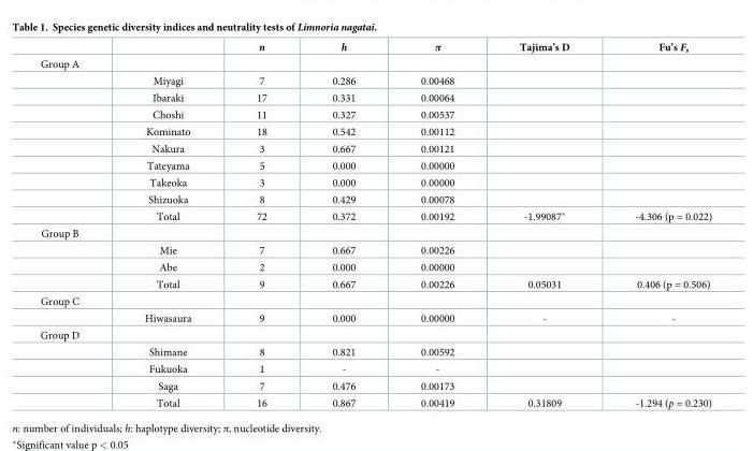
<table><thead><tr><td></td><td></td><td>n</td><td>h</td><td>π</td><td>Tajima’s D</td><td>Fu’s F<sub>s</sub></td></tr></thead><tbody><tr><td colspan="7">Group A</td></tr><tr><td></td><td>Miyagi</td><td>7</td><td>0.286</td><td>0.00468</td><td></td><td></td></tr><tr><td></td><td>Ibaraki</td><td>17</td><td>0.331</td><td>0.00064</td><td></td><td></td></tr><tr><td></td><td>Choshi</td><td>11</td><td>0.327</td><td>0.00537</td><td></td><td></td></tr><tr><td></td><td>Kominato</td><td>18</td><td>0.542</td><td>0.00112</td><td></td><td></td></tr><tr><td></td><td>Nakura</td><td>3</td><td>0.667</td><td>0.00121</td><td></td><td></td></tr><tr><td></td><td>Tateyama</td><td>5</td><td>0.000</td><td>0.00000</td><td></td><td></td></tr><tr><td></td><td>Takeoka</td><td>3</td><td>0.000</td><td>0.00000</td><td></td><td></td></tr><tr><td></td><td>Shizuoka</td><td>8</td><td>0.429</td><td>0.00078</td><td></td><td></td></tr><tr><td></td><td>Total</td><td>72</td><td>0.372</td><td>0.00192</td><td>-1.99087*</td><td>-4.306 (p = 0.022)</td></tr><tr><td colspan="7">Group B</td></tr><tr><td></td><td>Mie</td><td>7</td><td>0.667</td><td>0.00226</td><td></td><td></td></tr><tr><td></td><td>Abe</td><td>2</td><td>0.000</td><td>0.00000</td><td></td><td></td></tr><tr><td></td><td>Total</td><td>9</td><td>0.667</td><td>0.00226</td><td>0.05031</td><td>0.406 (p = 0.506)</td></tr><tr><td colspan="7">Group C</td></tr><tr><td></td><td>Hiwasaura</td><td>9</td><td>0.000</td><td>0.00000</td><td>-</td><td>-</td></tr><tr><td colspan="7">Group D</td></tr><tr><td></td><td>Shimane</td><td>8</td><td>0.821</td><td>0.00592</td><td></td><td></td></tr><tr><td></td><td>Fukuoka</td><td>1</td><td>-</td><td>-</td><td></td><td></td></tr><tr><td></td><td>Saga</td><td>7</td><td>0.476</td><td>0.00173</td><td></td><td></td></tr><tr><td></td><td>Total</td><td>16</td><td>0.867</td><td>0.00419</td><td>0.31809</td><td>-1.294 (p = 0.230)</td></tr></tbody></table>